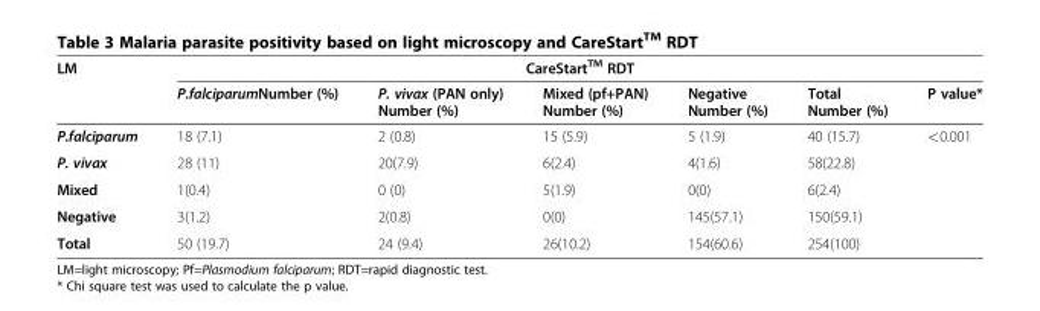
<table><thead><tr><td rowspan="2">LM</td><td colspan="6">CareStart<sup>TM</sup> RDT</td></tr><tr><td>P.falciparumNumber (%)</td><td>P. vivax (PAN only) Number (%)</td><td>Mixed (pf+PAN) Number (%)</td><td>Negative Number (%)</td><td>Total Number (%)</td><td>P value*</td></tr></thead><tbody><tr><td>P.falciparum</td><td>18 (7.1)</td><td>2 (0.8)</td><td>15 (5.9)</td><td>5 (1.9)</td><td>40 (15.7)</td><td>&lt;0.001</td></tr><tr><td>P. vivax</td><td>28 (11)</td><td>20(7.9)</td><td>6(2.4)</td><td>4(1.6)</td><td>58(22.8)</td><td></td></tr><tr><td>Mixed</td><td>1(0.4)</td><td>0 (0)</td><td>5(1.9)</td><td>0(0)</td><td>6(2.4)</td><td></td></tr><tr><td>Negative</td><td>3(1.2)</td><td>2(0.8)</td><td>0(0)</td><td>145(57.1)</td><td>150(59.1)</td><td></td></tr><tr><td>Total</td><td>50 (19.7)</td><td>24 (9.4)</td><td>26(10.2)</td><td>154(60.6)</td><td>254(100)</td><td></td></tr></tbody></table>